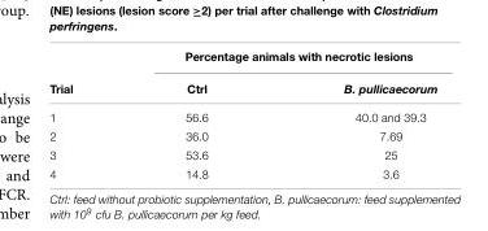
<table><thead><tr><td rowspan="2">Trial</td><td colspan="2">Percentage animals with necrotic lesions</td></tr><tr><td>Ctrl</td><td>B. pullicaecorum</td></tr></thead><tbody><tr><td>1</td><td>56.6</td><td>40.0 and 39.3</td></tr><tr><td>2</td><td>36.0</td><td>7.69</td></tr><tr><td>3</td><td>53.6</td><td>25</td></tr><tr><td>4</td><td>14.8</td><td>3.6</td></tr></tbody></table>